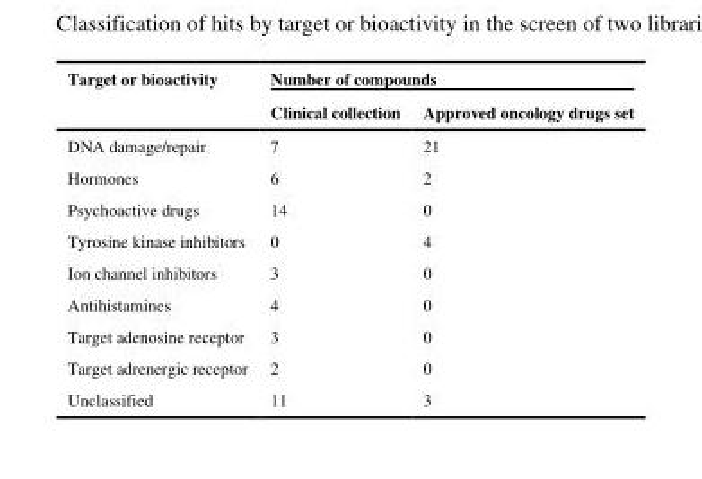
<table><thead><tr><td rowspan="2">Target or bioactivity</td><td colspan="2">Number of compounds</td></tr><tr><td>Clinical collection</td><td>Approved oncology drugs set</td></tr></thead><tbody><tr><td>DNA damage/repair</td><td>7</td><td>21</td></tr><tr><td>Hormones</td><td>6</td><td>2</td></tr><tr><td>Psychoactive drugs</td><td>14</td><td>0</td></tr><tr><td>Tyrosine kinase inhibitors</td><td>0</td><td>4</td></tr><tr><td>Ion channel inhibitors</td><td>3</td><td>0</td></tr><tr><td>Antihistamines</td><td>4</td><td>0</td></tr><tr><td>Target adenosine receptor</td><td>3</td><td>0</td></tr><tr><td>Target adrenergic receptor</td><td>2</td><td>0</td></tr><tr><td>Unclassified</td><td>11</td><td>3</td></tr></tbody></table>